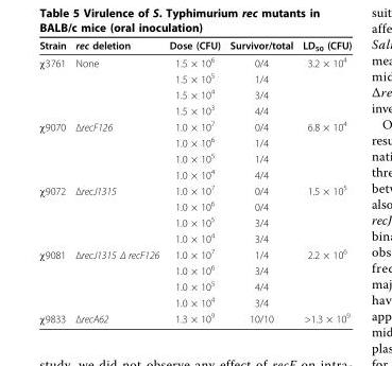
<table><thead><tr><td>Strain</td><td>rec deletion</td><td>Dose (CFU)</td><td>Survivor/total</td><td>LD<sub>50</sub> (CFU)</td></tr></thead><tbody><tr><td rowspan="4">χ3761</td><td>None</td><td>1.5 × 10<sup>6</sup></td><td>0/4</td><td>3.2 × 10<sup>4</sup></td></tr><tr><td></td><td>1.5 × 10<sup>5</sup></td><td>1/4</td><td></td></tr><tr><td></td><td>1.5 × 10<sup>4</sup></td><td>3/4</td><td></td></tr><tr><td></td><td>1.5 × 10<sup>3</sup></td><td>4/4</td><td></td></tr><tr><td rowspan="4">χ9070</td><td>ΔrecF126</td><td>1.0 × 10<sup>7</sup></td><td>0/4</td><td>6.8 × 10<sup>4</sup></td></tr><tr><td></td><td>1.0 × 10<sup>6</sup></td><td>1/4</td><td></td></tr><tr><td></td><td>1.0 × 10<sup>5</sup></td><td>1/4</td><td></td></tr><tr><td></td><td>1.0 × 10<sup>4</sup></td><td>4/4</td><td></td></tr><tr><td rowspan="4">χ9072</td><td>ΔrecJ1315</td><td>1.0 × 10<sup>7</sup></td><td>0/4</td><td>1.5 × 10<sup>5</sup></td></tr><tr><td></td><td>1.0 × 10<sup>6</sup></td><td>0/4</td><td></td></tr><tr><td></td><td>1.0 × 10<sup>5</sup></td><td>3/4</td><td></td></tr><tr><td></td><td>1.0 × 10<sup>4</sup></td><td>3/4</td><td></td></tr><tr><td rowspan="4">χ9081</td><td>ΔrecJ1315 Δ recF126</td><td>1.0 × 10<sup>7</sup></td><td>1/4</td><td>2.2 × 10<sup>6</sup></td></tr><tr><td></td><td>1.0 × 10<sup>6</sup></td><td>3/4</td><td></td></tr><tr><td></td><td>1.0 × 10<sup>5</sup></td><td>4/4</td><td></td></tr><tr><td></td><td>1.0 × 10<sup>4</sup></td><td>3/4</td><td></td></tr><tr><td>χ9833</td><td>ΔrecA62</td><td>1.3 × 10<sup>9</sup></td><td>10/10</td><td>&gt;1.3 × 10<sup>9</sup></td></tr></tbody></table>